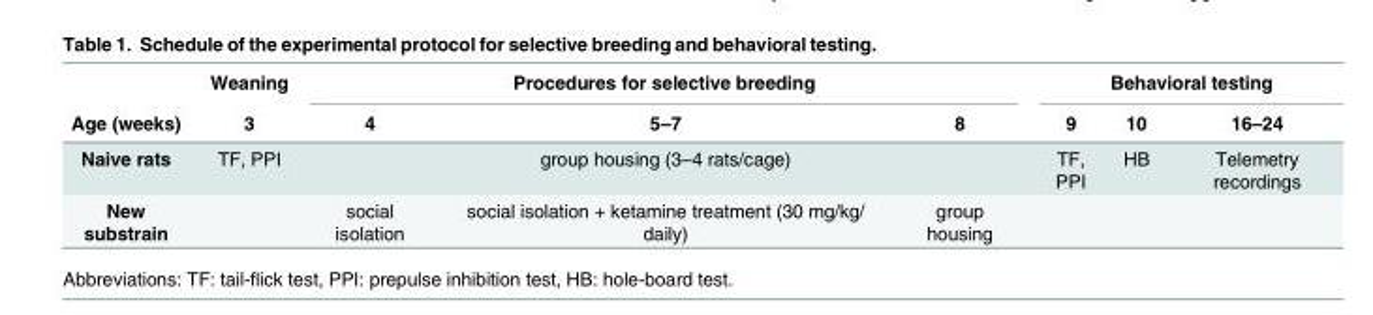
<table><thead><tr><td rowspan="2">Age (weeks)</td><td rowspan="2">Weaning 3</td><td colspan="3">Procedures for selective breeding</td><td colspan="3">Behavioral testing</td></tr><tr><td>4</td><td>5–7</td><td>8</td><td>9</td><td>10</td><td>16–24</td></tr></thead><tbody><tr><td>Naive rats</td><td>TF, PPI</td><td></td><td>group housing (3–4 rats/cage)</td><td></td><td>TF, PPI</td><td>HB</td><td>Telemetry recordings</td></tr><tr><td>New substrain</td><td></td><td>social isolation</td><td>social isolation + ketamine treatment (30 mg/kg/ daily)</td><td>group housing</td><td></td><td></td><td></td></tr></tbody></table>